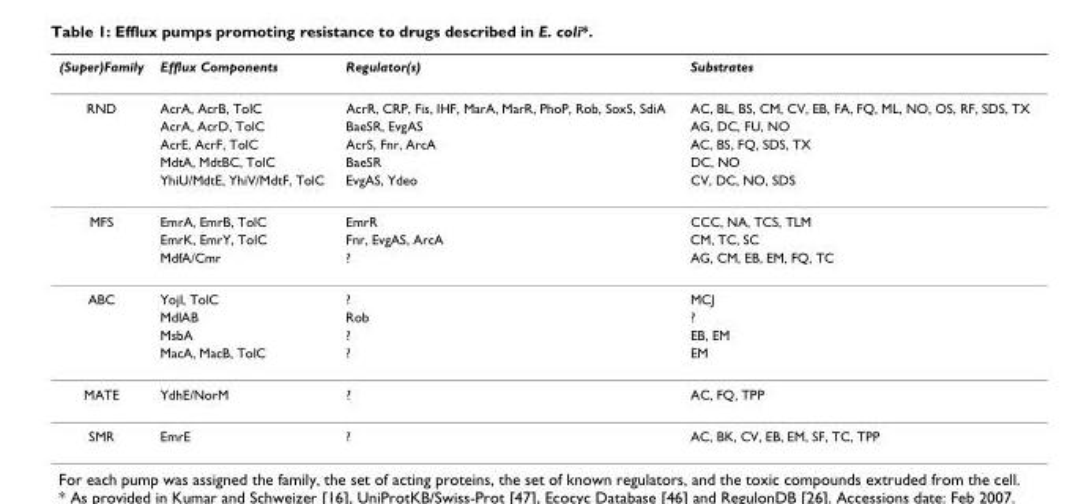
<table><thead><tr><td>(Super)Family</td><td>Efflux Components</td><td>Regulator(s)</td><td>Substrates</td></tr></thead><tbody><tr><td rowspan="5">RND</td><td>AcrA, AcrB, TolC</td><td>AcrR, CRP, Fis, IHF, MarA, MarR, PhoP, Rob, SoxS, SdiA</td><td>AC, BL, BS, CM, CV, EB, FA, FQ, ML, NO, OS, RF, SDS, TX</td></tr><tr><td>AcrA, AcrD, TolC</td><td>BaeSR, EvgAS</td><td>AG, DC, FU, NO</td></tr><tr><td>AcrE, AcrF, TolC</td><td>AcrS, Fnr, ArcA</td><td>AC, BS, FQ, SDS, TX</td></tr><tr><td>MdtA, MdtBC, TolC</td><td>BaeSR</td><td>DC, NO</td></tr><tr><td>YhiU/MdtE, YhiV/MdtF, TolC</td><td>EvgAS, Ydeo</td><td>CV, DC, NO, SDS</td></tr><tr><td rowspan="3">MFS</td><td>EmrA, EmrB, TolC</td><td>EmrR</td><td>CCC, NA, TCS, TLM</td></tr><tr><td>EmrK, EmrY, TolC</td><td>Fnr, EvgAS, ArcA</td><td>CM, TC, SC</td></tr><tr><td>MdfA/Cmr</td><td>?</td><td>AG, CM, EB, EM, FQ, TC</td></tr><tr><td rowspan="4">ABC</td><td>YojI, TolC</td><td>?</td><td>MCJ</td></tr><tr><td>MdlAB</td><td>Rob</td><td>?</td></tr><tr><td>MsbA</td><td>?</td><td>EB, EM</td></tr><tr><td>MacA, MacB, TolC</td><td>?</td><td>EM</td></tr><tr><td>MATE</td><td>YdhE/NorM</td><td>?</td><td>AC, FQ, TPP</td></tr><tr><td>SMR</td><td>EmrE</td><td>?</td><td>AC, BK, CV, EB, EM, SF, TC, TPP</td></tr></tbody></table>